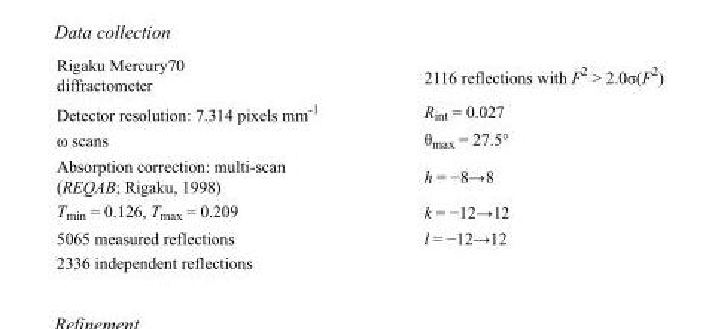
<table><tbody><tr><td>Rigaku Mercury70 diffractometer</td><td>2116 reflections with F<sup>2</sup> &gt; 2.0σ(F<sup>2</sup>)</td></tr><tr><td>Detector resolution: 7.314 pixels mm<sup>-1</sup></td><td>R<sub>int</sub> = 0.027</td></tr><tr><td>ω scans</td><td>θ<sub>max</sub> = 27.5°</td></tr><tr><td>Absorption correction: multi-scan (REQAB; Rigaku, 1998)</td><td>h = −8→8</td></tr><tr><td>T<sub>min</sub> = 0.126, T<sub>max</sub> = 0.209</td><td>k = −12→12</td></tr><tr><td>5065 measured reflections</td><td>l = −12→12</td></tr><tr><td>2336 independent reflections</td><td></td></tr></tbody></table>